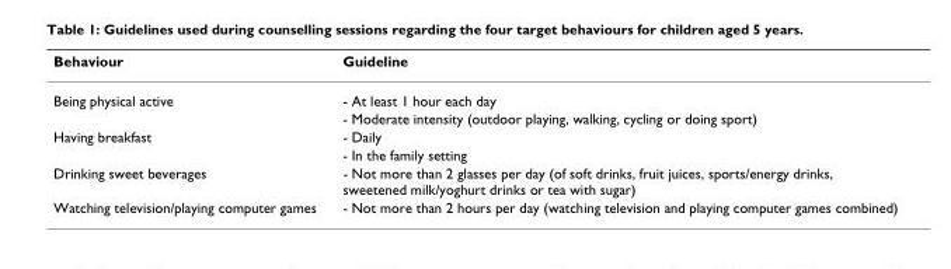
<table><thead><tr><td>Behaviour</td><td>Guideline</td></tr></thead><tbody><tr><td rowspan="2">Being physical active</td><td>- At least 1 hour each day</td></tr><tr><td>- Moderate intensity (outdoor playing, walking, cycling or doing sport)</td></tr><tr><td rowspan="2">Having breakfast</td><td>- Daily</td></tr><tr><td>- In the family setting</td></tr><tr><td>Drinking sweet beverages</td><td>- Not more than 2 glasses per day (of soft drinks, fruit juices, sports/energy drinks, sweetened milk/yoghurt drinks or tea with sugar)</td></tr><tr><td>Watching television/playing computer games</td><td>- Not more than 2 hours per day (watching television and playing computer games combined)</td></tr></tbody></table>